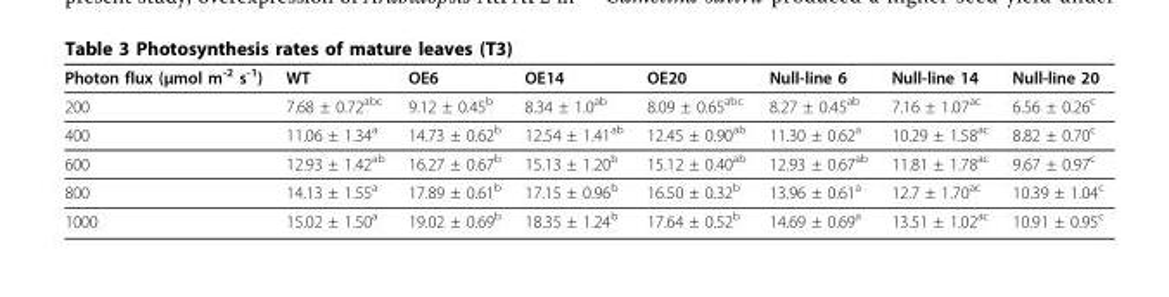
<table><thead><tr><td>Photon flux (μmol m<sup>-2</sup> s<sup>-1</sup>)</td><td>WT</td><td>OE6</td><td>OE14</td><td>OE20</td><td>Null-line 6</td><td>Null-line 14</td><td>Null-line 20</td></tr></thead><tbody><tr><td>200</td><td>7.68 ± 0.72<sup>abc</sup></td><td>9.12 ± 0.45<sup>b</sup></td><td>8.34 ± 1.0<sup>ab</sup></td><td>8.09 ± 0.65<sup>abc</sup></td><td>8.27 ± 0.45<sup>ab</sup></td><td>7.16 ± 1.07<sup>ac</sup></td><td>6.56 ± 0.26<sup>c</sup></td></tr><tr><td>400</td><td>11.06 ± 1.34<sup>a</sup></td><td>14.73 ± 0.62<sup>b</sup></td><td>12.54 ± 1.41<sup>ab</sup></td><td>12.45 ± 0.90<sup>ab</sup></td><td>11.30 ± 0.62<sup>a</sup></td><td>10.29 ± 1.58<sup>ac</sup></td><td>8.82 ± 0.70<sup>c</sup></td></tr><tr><td>600</td><td>12.93 ± 1.42<sup>ab</sup></td><td>16.27 ± 0.67<sup>b</sup></td><td>15.13 ± 1.20<sup>b</sup></td><td>15.12 ± 0.40<sup>ab</sup></td><td>12.93 ± 0.67<sup>ab</sup></td><td>11.81 ± 1.78<sup>ac</sup></td><td>9.67 ± 0.97<sup>c</sup></td></tr><tr><td>800</td><td>14.13 ± 1.55<sup>a</sup></td><td>17.89 ± 0.61<sup>b</sup></td><td>17.15 ± 0.96<sup>b</sup></td><td>16.50 ± 0.32<sup>b</sup></td><td>13.96 ± 0.61<sup>a</sup></td><td>12.7 ± 1.70<sup>ac</sup></td><td>10.39 ± 1.04<sup>c</sup></td></tr><tr><td>1000</td><td>15.02 ± 1.50<sup>a</sup></td><td>19.02 ± 0.69<sup>b</sup></td><td>18.35 ± 1.24<sup>b</sup></td><td>17.64 ± 0.52<sup>b</sup></td><td>14.69 ± 0.69<sup>a</sup></td><td>13.51 ± 1.02<sup>ac</sup></td><td>10.91 ± 0.95<sup>c</sup></td></tr></tbody></table>